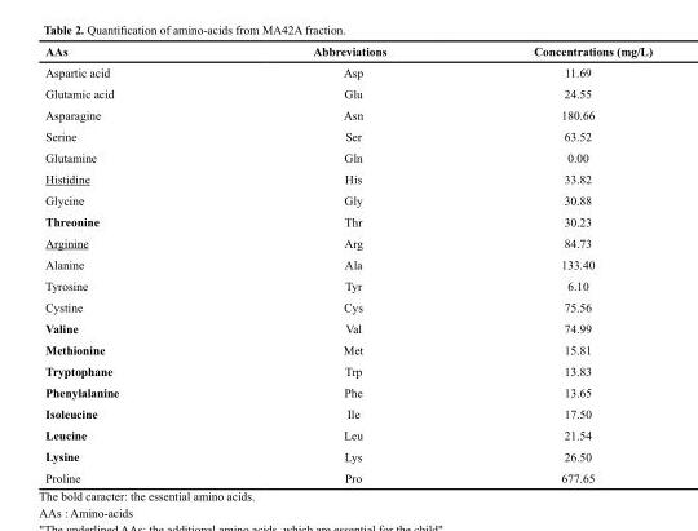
<table><thead><tr><td>AAs</td><td>Abbreviations</td><td>Concentrations (mg/L)</td></tr></thead><tbody><tr><td>Aspartic acid</td><td>Asp</td><td>11.69</td></tr><tr><td>Glutamic acid</td><td>Glu</td><td>24.55</td></tr><tr><td>Asparagine</td><td>Asn</td><td>180.66</td></tr><tr><td>Serine</td><td>Ser</td><td>63.52</td></tr><tr><td>Glutamine</td><td>Gln</td><td>0.00</td></tr><tr><td>Histidine</td><td>His</td><td>33.82</td></tr><tr><td>Glycine</td><td>Gly</td><td>30.88</td></tr><tr><td>Threonine</td><td>Thr</td><td>30.23</td></tr><tr><td>Arginine</td><td>Arg</td><td>84.73</td></tr><tr><td>Alanine</td><td>Ala</td><td>133.40</td></tr><tr><td>Tyrosine</td><td>Tyr</td><td>6.10</td></tr><tr><td>Cystine</td><td>Cys</td><td>75.56</td></tr><tr><td>Valine</td><td>Val</td><td>74.99</td></tr><tr><td>Methionine</td><td>Met</td><td>15.81</td></tr><tr><td>Tryptophane</td><td>Trp</td><td>13.83</td></tr><tr><td>Phenylalanine</td><td>Phe</td><td>13.65</td></tr><tr><td>Isoleucine</td><td>Ile</td><td>17.50</td></tr><tr><td>Leucine</td><td>Leu</td><td>21.54</td></tr><tr><td>Lysine</td><td>Lys</td><td>26.50</td></tr><tr><td>Proline</td><td>Pro</td><td>677.65</td></tr></tbody></table>